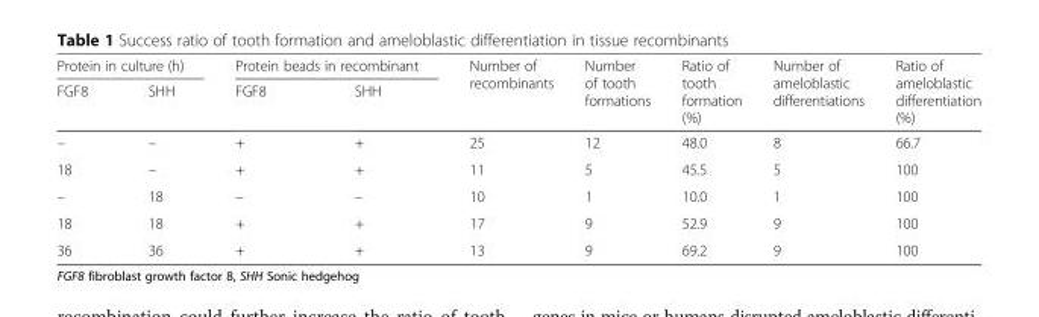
<table><thead><tr><td colspan="2">Protein in culture (h)</td><td colspan="2">Protein beads in recombinant</td><td rowspan="2">Number of recombinants</td><td rowspan="2">Number of tooth formations</td><td rowspan="2">Ratio of tooth formation (%)</td><td rowspan="2">Number of ameloblastic differentiations</td><td rowspan="2">Ratio of ameloblastic differentiation (%)</td></tr><tr><td>FGF8</td><td>SHH</td><td>FGF8</td><td>SHH</td></tr></thead><tbody><tr><td>–</td><td>–</td><td>+</td><td>+</td><td>25</td><td>12</td><td>48.0</td><td>8</td><td>66.7</td></tr><tr><td>18</td><td>–</td><td>+</td><td>+</td><td>11</td><td>5</td><td>45.5</td><td>5</td><td>100</td></tr><tr><td>–</td><td>18</td><td>–</td><td>–</td><td>10</td><td>1</td><td>10.0</td><td>1</td><td>100</td></tr><tr><td>18</td><td>18</td><td>+</td><td>+</td><td>17</td><td>9</td><td>52.9</td><td>9</td><td>100</td></tr><tr><td>36</td><td>36</td><td>+</td><td>+</td><td>13</td><td>9</td><td>69.2</td><td>9</td><td>100</td></tr></tbody></table>